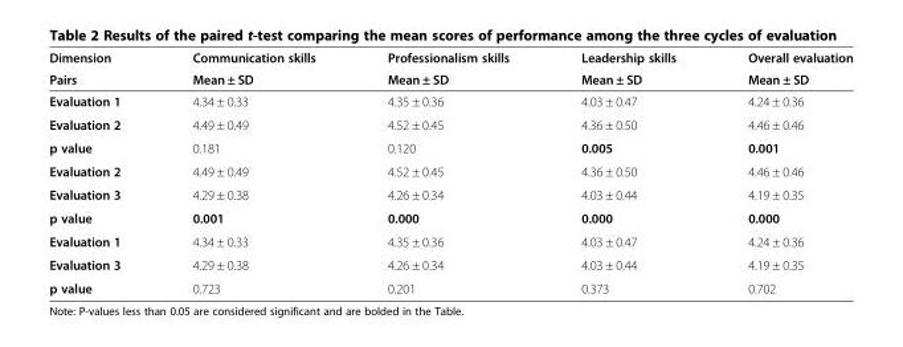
<table><thead><tr><td rowspan="2">Dimension Pairs</td><td rowspan="2">Communication skills Mean ± SD</td><td rowspan="2">Professionalism skills Mean ± SD</td><td rowspan="2">Leadership skills Mean ± SD</td><td rowspan="2">Overall evaluation Mean ± SD</td></tr><tr></tr></thead><tbody><tr><td>Evaluation 1</td><td>4.34 ± 0.33</td><td>4.35 ± 0.36</td><td>4.03 ± 0.47</td><td>4.24 ± 0.36</td></tr><tr><td>Evaluation 2</td><td>4.49 ± 0.49</td><td>4.52 ± 0.45</td><td>4.36 ± 0.50</td><td>4.46 ± 0.46</td></tr><tr><td>p value</td><td>0.181</td><td>0.120</td><td>0.005</td><td>0.001</td></tr><tr><td>Evaluation 2</td><td>4.49 ± 0.49</td><td>4.52 ± 0.45</td><td>4.36 ± 0.50</td><td>4.46 ± 0.46</td></tr><tr><td>Evaluation 3</td><td>4.29 ± 0.38</td><td>4.26 ± 0.34</td><td>4.03 ± 0.44</td><td>4.19 ± 0.35</td></tr><tr><td>p value</td><td>0.001</td><td>0.000</td><td>0.000</td><td>0.000</td></tr><tr><td>Evaluation 1</td><td>4.34 ± 0.33</td><td>4.35 ± 0.36</td><td>4.03 ± 0.47</td><td>4.24 ± 0.36</td></tr><tr><td>Evaluation 3</td><td>4.29 ± 0.38</td><td>4.26 ± 0.34</td><td>4.03 ± 0.44</td><td>4.19 ± 0.35</td></tr><tr><td>p value</td><td>0.723</td><td>0.201</td><td>0.373</td><td>0.702</td></tr></tbody></table>